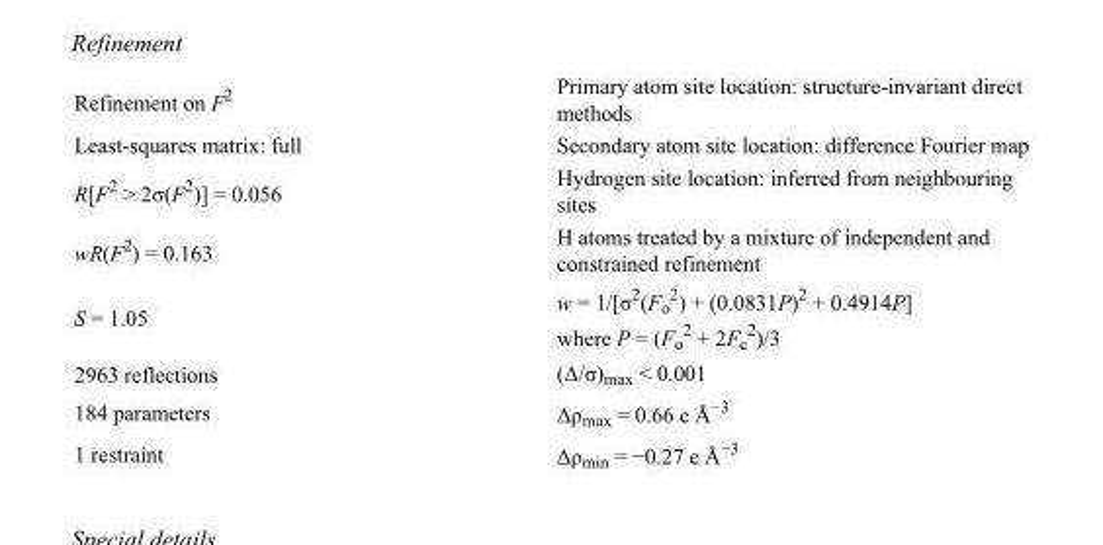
<table><tbody><tr><td>Refinement on F<sup>2</sup></td><td>Primary atom site location: structure-invariant direct methods</td></tr><tr><td>Least-squares matrix: full</td><td>Secondary atom site location: difference Fourier map</td></tr><tr><td>R[F<sup>2</sup> &gt; 2σ(F<sup>2</sup>)] = 0.056</td><td>Hydrogen site location: inferred from neighbouring sites</td></tr><tr><td>wR(F<sup>2</sup>) = 0.163</td><td>H atoms treated by a mixture of independent and constrained refinement</td></tr><tr><td>S = 1.05</td><td>w = 1/[σ<sup>2</sup>(F<sub>o</sub> <sup>2</sup>) + (0.0831P)<sup>2</sup> + 0.4914P] where P = (F<sub>o</sub> <sup>2</sup> + 2F<sub>c</sub> <sup>2</sup>)/3</td></tr><tr><td>2963 reflections</td><td>(Δ/σ)<sub>max</sub> &lt; 0.001</td></tr><tr><td>184 parameters</td><td>Δρ<sub>max</sub> = 0.66 e Å<sup>−3</sup></td></tr><tr><td>1 restraint</td><td>Δρ<sub>min</sub> = −0.27 e Å<sup>−3</sup></td></tr></tbody></table>